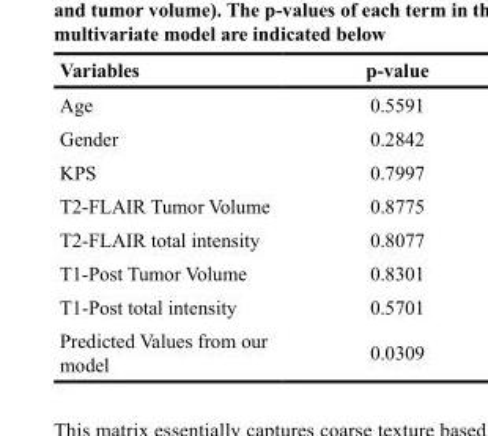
<table><thead><tr><td>Variables</td><td>p-value</td></tr></thead><tbody><tr><td>Age</td><td>0.5591</td></tr><tr><td>Gender</td><td>0.2842</td></tr><tr><td>KPS</td><td>0.7997</td></tr><tr><td>T2-FLAIR Tumor Volume</td><td>0.8775</td></tr><tr><td>T2-FLAIR total intensity</td><td>0.8077</td></tr><tr><td>T1-Post Tumor Volume</td><td>0.8301</td></tr><tr><td>T1-Post total intensity</td><td>0.5701</td></tr><tr><td>Predicted Values from our model</td><td>0.0309</td></tr></tbody></table>